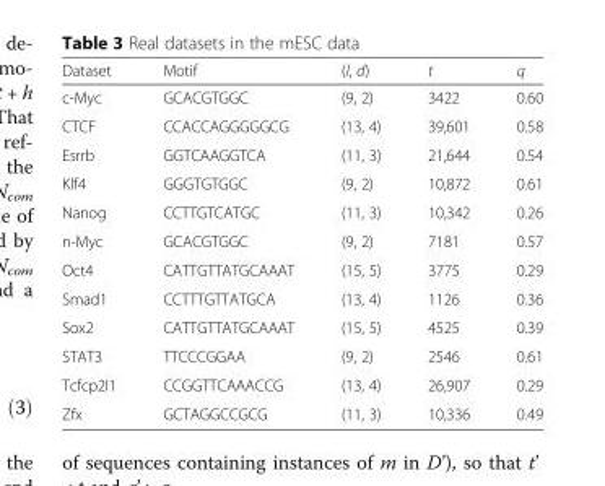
<table><thead><tr><td>Dataset</td><td>Motif</td><td>(l, d)</td><td>t</td><td>q</td></tr></thead><tbody><tr><td>c-Myc</td><td>GCACGTGGC</td><td>(9, 2)</td><td>3422</td><td>0.60</td></tr><tr><td>CTCF</td><td>CCACCAGGGGGCG</td><td>(13, 4)</td><td>39,601</td><td>0.58</td></tr><tr><td>Esrrb</td><td>GGTCAAGGTCA</td><td>(11, 3)</td><td>21,644</td><td>0.54</td></tr><tr><td>Klf4</td><td>GGGTGTGGC</td><td>(9, 2)</td><td>10,872</td><td>0.61</td></tr><tr><td>Nanog</td><td>CCTTGTCATGC</td><td>(11, 3)</td><td>10,342</td><td>0.26</td></tr><tr><td>n-Myc</td><td>GCACGTGGC</td><td>(9, 2)</td><td>7181</td><td>0.57</td></tr><tr><td>Oct4</td><td>CATTGTTATGCAAAT</td><td>(15, 5)</td><td>3775</td><td>0.29</td></tr><tr><td>Smad1</td><td>CCTTTGTTATGCA</td><td>(13, 4)</td><td>1126</td><td>0.36</td></tr><tr><td>Sox2</td><td>CATTGTTATGCAAAT</td><td>(15, 5)</td><td>4525</td><td>0.39</td></tr><tr><td>STAT3</td><td>TTCCCGGAA</td><td>(9, 2)</td><td>2546</td><td>0.61</td></tr><tr><td>Tcfcp2I1</td><td>CCGGTTCAAACCG</td><td>(13, 4)</td><td>26,907</td><td>0.29</td></tr><tr><td>Zfx</td><td>GCTAGGCCGCG</td><td>(11, 3)</td><td>10,336</td><td>0.49</td></tr></tbody></table>